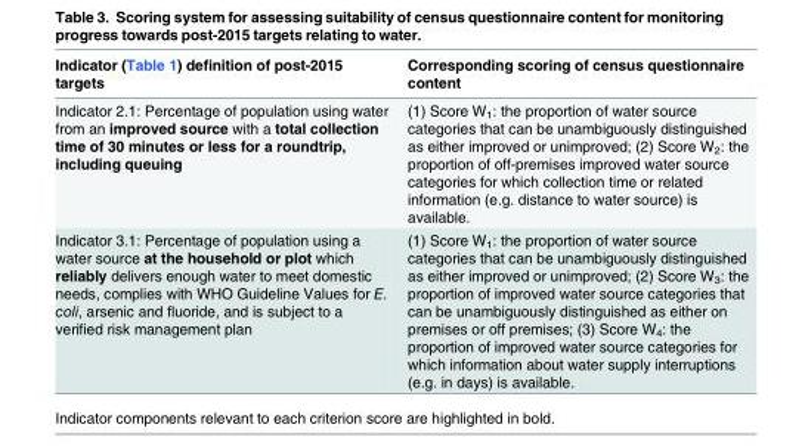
<table><thead><tr><td>Indicator (Table 1) definition of post-2015 targets</td><td>Corresponding scoring of census questionnaire content</td></tr></thead><tbody><tr><td>Indicator 2.1: Percentage of population using water from an improved source with a total collection time of 30 minutes or less for a roundtrip, including queuing</td><td>(1) Score W<sub>1</sub>: the proportion of water source categories that can be unambiguously distinguished as either improved or unimproved; (2) Score W<sub>2</sub>: the proportion of off-premises improved water source categories for which collection time or related information (e.g. distance to water source) is available.</td></tr><tr><td>Indicator 3.1: Percentage of population using a water source at the household or plot which reliably delivers enough water to meet domestic needs, complies with WHO Guideline Values for E. coli, arsenic and fluoride, and is subject to a verified risk management plan</td><td>(1) Score W<sub>1</sub>: the proportion of water source categories that can be unambiguously distinguished as either improved or unimproved; (2) Score W<sub>3</sub>: the proportion of improved water source categories that can be unambiguously distinguished as either on premises or off premises; (3) Score W<sub>4</sub>: the proportion of improved water source categories for which information about water supply interruptions (e.g. in days) is available.</td></tr></tbody></table>